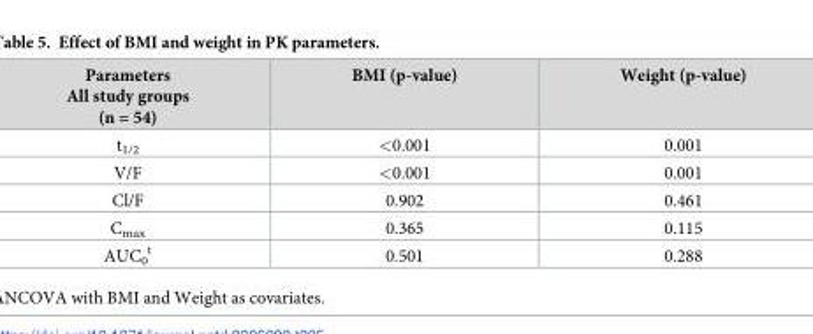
<table><thead><tr><td>Parameters All study groups (n = 54)</td><td>BMI (p-value)</td><td>Weight (p-value)</td></tr></thead><tbody><tr><td>t<sub>1/2</sub></td><td>&lt;0.001</td><td>0.001</td></tr><tr><td>V/F</td><td>&lt;0.001</td><td>0.001</td></tr><tr><td>Cl/F</td><td>0.902</td><td>0.461</td></tr><tr><td>C<sub>max</sub></td><td>0.365</td><td>0.115</td></tr><tr><td>AUC<sub>0</sub> <sup>t</sup></td><td>0.501</td><td>0.288</td></tr></tbody></table>